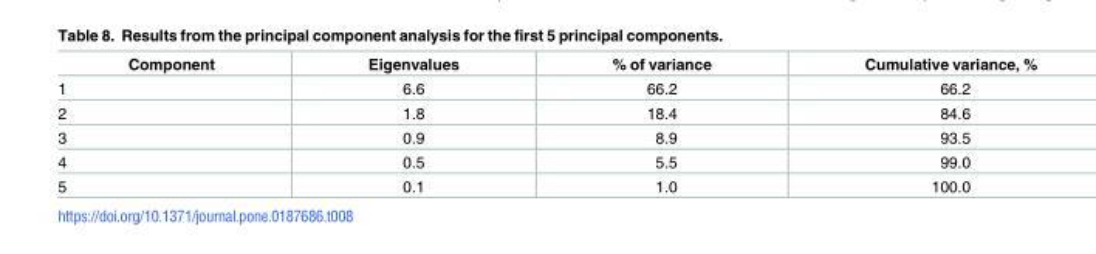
<table><thead><tr><td>Component</td><td>Eigenvalues</td><td>% of variance</td><td>Cumulative variance, %</td></tr></thead><tbody><tr><td>1</td><td>6.6</td><td>66.2</td><td>66.2</td></tr><tr><td>2</td><td>1.8</td><td>18.4</td><td>84.6</td></tr><tr><td>3</td><td>0.9</td><td>8.9</td><td>93.5</td></tr><tr><td>4</td><td>0.5</td><td>5.5</td><td>99.0</td></tr><tr><td>5</td><td>0.1</td><td>1.0</td><td>100.0</td></tr></tbody></table>